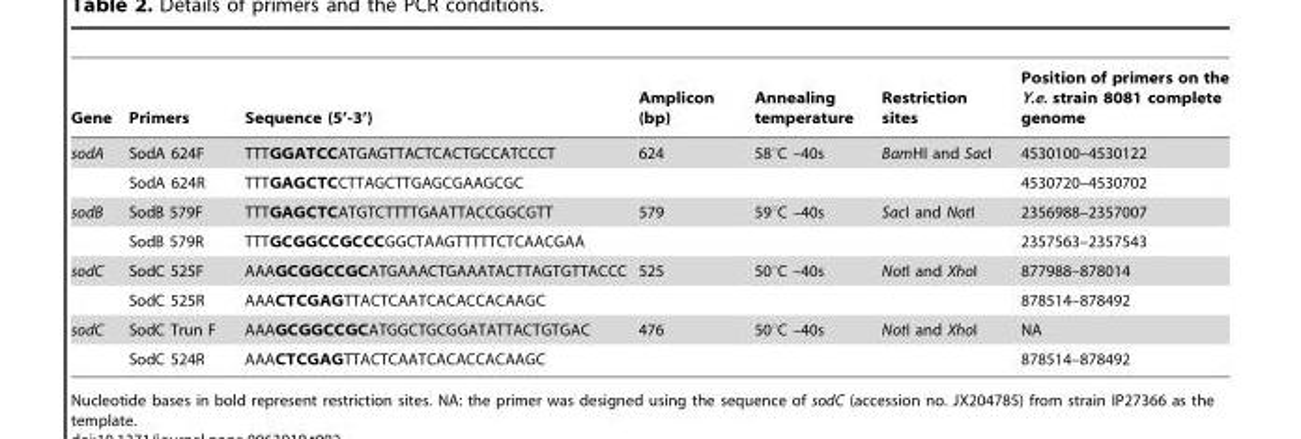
<table><thead><tr><td>Gene</td><td>Primers</td><td>Sequence (5’-3’)</td><td>Amplicon (bp)</td><td>Annealing temperature</td><td>Restriction sites</td><td>Position of primers on the Y.e. strain 8081 complete genome</td></tr></thead><tbody><tr><td rowspan="2">sodA</td><td>SodA 624F</td><td>TTTGGATCCATGAGTTACTCACTGCCATCCCT</td><td>624</td><td>58°C –40s</td><td>BamHI and SacI</td><td>4530100–4530122</td></tr><tr><td>SodA 624R</td><td>TTTGAGCTCCTTAGCTTGAGCGAAGCGC</td><td></td><td></td><td></td><td>4530720–4530702</td></tr><tr><td rowspan="2">sodB</td><td>SodB 579F</td><td>TTTGAGCTCATGTCTTTTGAATTACCGGCGTT</td><td>579</td><td>59°C –40s</td><td>SacI and NotI</td><td>2356988–2357007</td></tr><tr><td>SodB 579R</td><td>TTTGCGGCCGCCCGGCTAAGTTTTTCTCAACGAA</td><td></td><td></td><td></td><td>2357563–2357543</td></tr><tr><td rowspan="2">sodC</td><td>SodC 525F</td><td>AAAGCGGCCGCATGAAACTGAAATACTTAGTGTTACCC</td><td>525</td><td>50°C –40s</td><td>NotI and XhoI</td><td>877988–878014</td></tr><tr><td>SodC 525R</td><td>AAACTCGAGTTACTCAATCACACCACAAGC</td><td></td><td></td><td></td><td>878514–878492</td></tr><tr><td rowspan="2">sodC</td><td>SodC Trun F</td><td>AAAGCGGCCGCATGGCTGCGGATATTACTGTGAC</td><td>476</td><td>50°C –40s</td><td>NotI and XhoI</td><td>NA</td></tr><tr><td>SodC 524R</td><td>AAACTCGAGTTACTCAATCACACCACAAGC</td><td></td><td></td><td></td><td>878514–878492</td></tr></tbody></table>